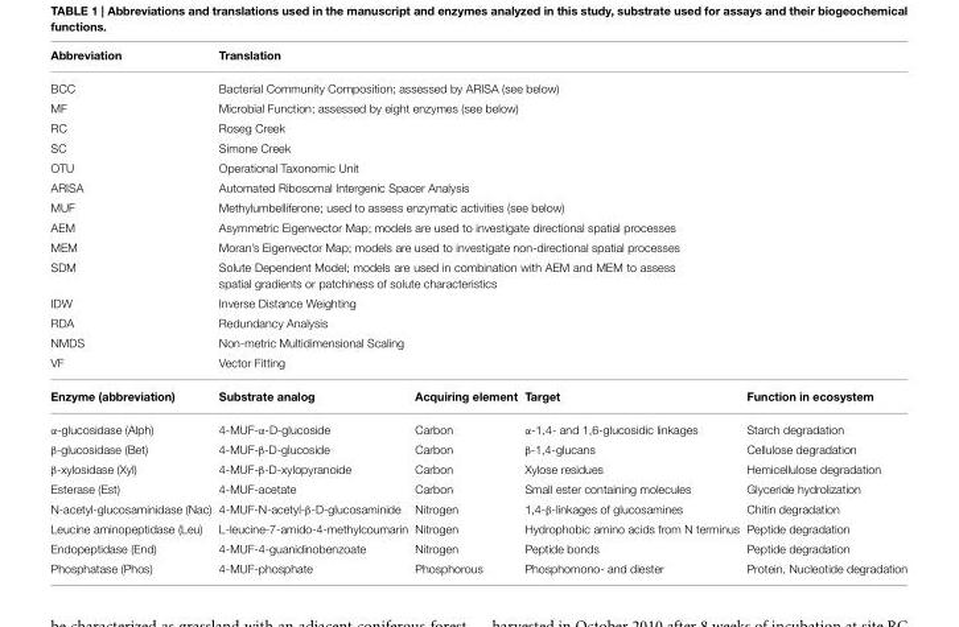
<table><thead><tr><td>Abbreviation</td><td colspan="4">Translation</td></tr></thead><tbody><tr><td>BCC</td><td colspan="4">Bacterial Community Composition; assessed by ARISA (see below)</td></tr><tr><td>MF</td><td colspan="4">Microbial Function; assessed by eight enzymes (see below)</td></tr><tr><td>RC</td><td colspan="4">Roseg Creek</td></tr><tr><td>SC</td><td colspan="4">Simone Creek</td></tr><tr><td>OTU</td><td colspan="4">Operational Taxonomic Unit</td></tr><tr><td>ARISA</td><td colspan="4">Automated Ribosomal Intergenic Spacer Analysis</td></tr><tr><td>MUF</td><td colspan="4">Methylumbelliferone; used to assess enzymatic activities (see below)</td></tr><tr><td>AEM</td><td colspan="4">Asymmetric Eigenvector Map; models are used to investigate directional spatial processes</td></tr><tr><td>MEM</td><td colspan="4">Moran’s Eigenvector Map; models are used to investigate non-directional spatial processes</td></tr><tr><td>SDM</td><td colspan="4">Solute Dependent Model; models are used in combination with AEM and MEM to assess spatial gradients or patchiness of solute characteristics</td></tr><tr><td>IDW</td><td colspan="4">Inverse Distance Weighting</td></tr><tr><td>RDA</td><td colspan="4">Redundancy Analysis</td></tr><tr><td>NMDS</td><td colspan="4">Non-metric Multidimensional Scaling</td></tr><tr><td>VF</td><td colspan="4">Vector Fitting</td></tr><tr><td>Enzyme (abbreviation)</td><td>Substrate analog</td><td>Acquiring element</td><td>Target</td><td>Function in ecosystem</td></tr><tr><td>α-glucosidase (Alph)</td><td>4-MUF-α-D-glucoside</td><td>Carbon</td><td>α-1,4- and 1,6-glucosidic linkages</td><td>Starch degradation</td></tr><tr><td>β-glucosidase (Bet)</td><td>4-MUF-β-D-glucoside</td><td>Carbon</td><td>β-1,4-glucans</td><td>Cellulose degradation</td></tr><tr><td>β-xylosidase (Xyl)</td><td>4-MUF-β-D-xylopyranoide</td><td>Carbon</td><td>Xylose residues</td><td>Hemicellulose degradation</td></tr><tr><td>Esterase (Est)</td><td>4-MUF-acetate</td><td>Carbon</td><td>Small ester containing molecules</td><td>Glyceride hydrolization</td></tr><tr><td>N-acetyl-glucosaminidase (Nac)</td><td>4-MUF-N-acetyl-β-D-glucosaminide</td><td>Nitrogen</td><td>1,4-β-linkages of glucosamines</td><td>Chitin degradation</td></tr><tr><td>Leucine aminopeptidase (Leu)</td><td>L-leucine-7-amido-4-methylcoumarin</td><td>Nitrogen</td><td>Hydrophobic amino acids from N terminus</td><td>Peptide degradation</td></tr><tr><td>Endopeptidase (End)</td><td>4-MUF-4-guanidinobenzoate</td><td>Nitrogen</td><td>Peptide bonds</td><td>Peptide degradation</td></tr><tr><td>Phosphatase (Phos)</td><td>4-MUF-phosphate</td><td>Phosphorous</td><td>Phosphomono- and diester</td><td>Protein, Nucleotide degradation</td></tr></tbody></table>